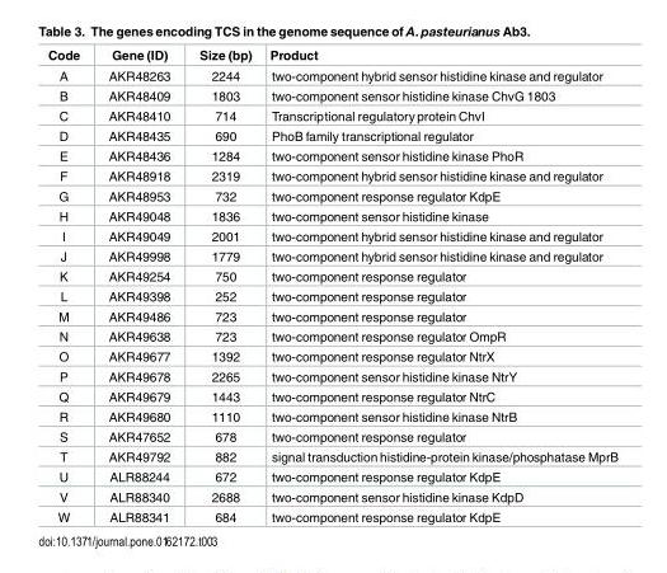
<table><thead><tr><td>Code</td><td>Gene (ID)</td><td>Size (bp)</td><td>Product</td></tr></thead><tbody><tr><td>A</td><td>AKR48263</td><td>2244</td><td>two-component hybrid sensor histidine kinase and regulator</td></tr><tr><td>B</td><td>AKR48409</td><td>1803</td><td>two-component sensor histidine kinase ChvG 1803</td></tr><tr><td>C</td><td>AKR48410</td><td>714</td><td>Transcriptional regulatoryprotein ChvI</td></tr><tr><td>D</td><td>AKR48435</td><td>690</td><td>PhoB family transcriptional regulator</td></tr><tr><td>E</td><td>AKR48436</td><td>1284</td><td>two-component sensor histidine kinase PhoR</td></tr><tr><td>F</td><td>AKR48918</td><td>2319</td><td>two-component hybrid sensor histidine kinase and regulator</td></tr><tr><td>G</td><td>AKR48953</td><td>732</td><td>two-component response regulator KdpE</td></tr><tr><td>H</td><td>AKR49048</td><td>1836</td><td>two-component sensor histidine kinase</td></tr><tr><td>I</td><td>AKR49049</td><td>2001</td><td>two-component hybrid sensor histidine kinase and regulator</td></tr><tr><td>J</td><td>AKR49998</td><td>1779</td><td>two-component hybrid sensor histidine kinase and regulator</td></tr><tr><td>K</td><td>AKR49254</td><td>750</td><td>two-component response regulator</td></tr><tr><td>L</td><td>AKR49398</td><td>252</td><td>two-component response regulator</td></tr><tr><td>M</td><td>AKR49486</td><td>723</td><td>two-component response regulator</td></tr><tr><td>N</td><td>AKR49638</td><td>723</td><td>two-component response regulator OmpR</td></tr><tr><td>O</td><td>AKR49677</td><td>1392</td><td>two-component response regulator NtrX</td></tr><tr><td>P</td><td>AKR49678</td><td>2265</td><td>two-component sensor histidine kinase NtrY</td></tr><tr><td>Q</td><td>AKR49679</td><td>1443</td><td>two-component response regulator NtrC</td></tr><tr><td>R</td><td>AKR49680</td><td>1110</td><td>two-component sensor histidine kinase NtrB</td></tr><tr><td>S</td><td>AKR47652</td><td>678</td><td>two-component response regulator</td></tr><tr><td>T</td><td>AKR49792</td><td>882</td><td>signal transduction histidine-protein kinase/phosphatase MprB</td></tr><tr><td>U</td><td>ALR88244</td><td>672</td><td>two-component response regulator KdpE</td></tr><tr><td>V</td><td>ALR88340</td><td>2688</td><td>two-component sensor histidine kinase KdpD</td></tr><tr><td>W</td><td>ALR88341</td><td>684</td><td>two-component response regulator KdpE</td></tr></tbody></table>